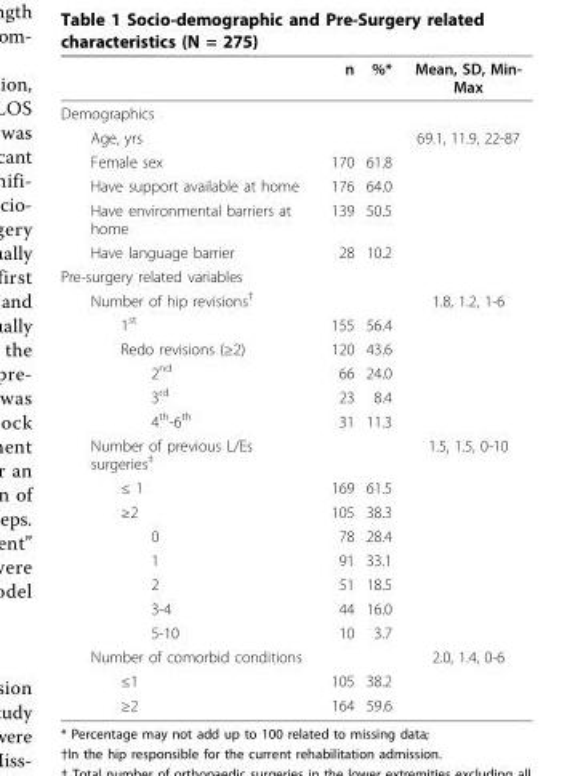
<table><thead><tr><td></td><td>n</td><td>%*</td><td>Mean, SD, Min- Max</td></tr></thead><tbody><tr><td colspan="4">Demographics</td></tr><tr><td>Age, yrs</td><td></td><td></td><td>69.1, 11.9, 22-87</td></tr><tr><td>Female sex</td><td>170</td><td>61.8</td><td></td></tr><tr><td>Have support available at home</td><td>176</td><td>64.0</td><td></td></tr><tr><td>Have environmental barriers at home</td><td>139</td><td>50.5</td><td></td></tr><tr><td>Have language barrier</td><td>28</td><td>10.2</td><td></td></tr><tr><td colspan="4">Pre-surgery related variables</td></tr><tr><td>Number of hip revisions<sup>†</sup></td><td></td><td></td><td>1.8, 1.2, 1-6</td></tr><tr><td>1<sup>st</sup></td><td>155</td><td>56.4</td><td></td></tr><tr><td>Redo revisions (≥2)</td><td>120</td><td>43.6</td><td></td></tr><tr><td>2<sup>nd</sup></td><td>66</td><td>24.0</td><td></td></tr><tr><td>3<sup>rd</sup></td><td>23</td><td>8.4</td><td></td></tr><tr><td>4<sup>th</sup>-6<sup>th</sup></td><td>31</td><td>11.3</td><td></td></tr><tr><td>Number of previous L/Es surgeries<sup>‡</sup></td><td></td><td></td><td>1.5, 1.5, 0-10</td></tr><tr><td>≤ 1</td><td>169</td><td>61.5</td><td></td></tr><tr><td>≥2</td><td>105</td><td>38.3</td><td></td></tr><tr><td>0</td><td>78</td><td>28.4</td><td></td></tr><tr><td>1</td><td>91</td><td>33.1</td><td></td></tr><tr><td>2</td><td>51</td><td>18.5</td><td></td></tr><tr><td>3-4</td><td>44</td><td>16.0</td><td></td></tr><tr><td>5-10</td><td>10</td><td>3.7</td><td></td></tr><tr><td>Number of comorbid conditions</td><td></td><td></td><td>2.0, 1.4, 0-6</td></tr><tr><td>≤1</td><td>105</td><td>38.2</td><td></td></tr><tr><td>≥2</td><td>164</td><td>59.6</td><td></td></tr></tbody></table>